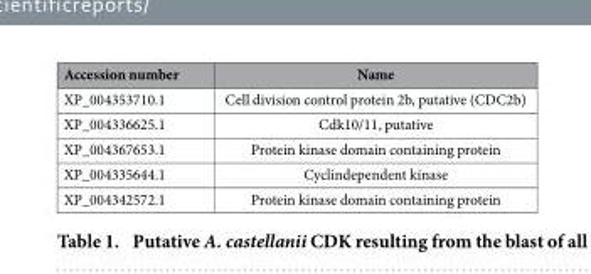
<table><thead><tr><td>Accession number</td><td>Name</td></tr></thead><tbody><tr><td>XP_004353710.1</td><td>Cell division control protein 2b, putative (CDC2b)</td></tr><tr><td>XP_004336625.1</td><td>Cdk10/11, putative</td></tr><tr><td>XP_004367653.1</td><td>Protein kinase domain containing protein</td></tr><tr><td>XP_004335644.1</td><td>Cyclindependent kinase</td></tr><tr><td>XP_004342572.1</td><td>Protein kinase domain containing protein</td></tr></tbody></table>